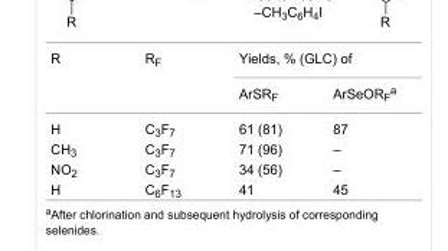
<table><tbody><tr><td>R</td><td>R<sub>F</sub></td><td colspan="2">Yields, % (GLC) of</td></tr><tr><td colspan="2"></td><td>ArSR<sub>F</sub></td><td>ArSeOR<sub>F</sub><sup>a</sup></td></tr><tr><td>H</td><td>C<sub>3</sub>F<sub>7</sub></td><td>61 (81)</td><td>87</td></tr><tr><td>CH<sub>3</sub></td><td>C<sub>3</sub>F<sub>7</sub></td><td>71 (96)</td><td>–</td></tr><tr><td>NO<sub>2</sub></td><td>C<sub>3</sub>F<sub>7</sub></td><td>34 (56)</td><td>–</td></tr><tr><td>H</td><td>C<sub>6</sub>F<sub>13</sub></td><td>41</td><td>45</td></tr></tbody></table>